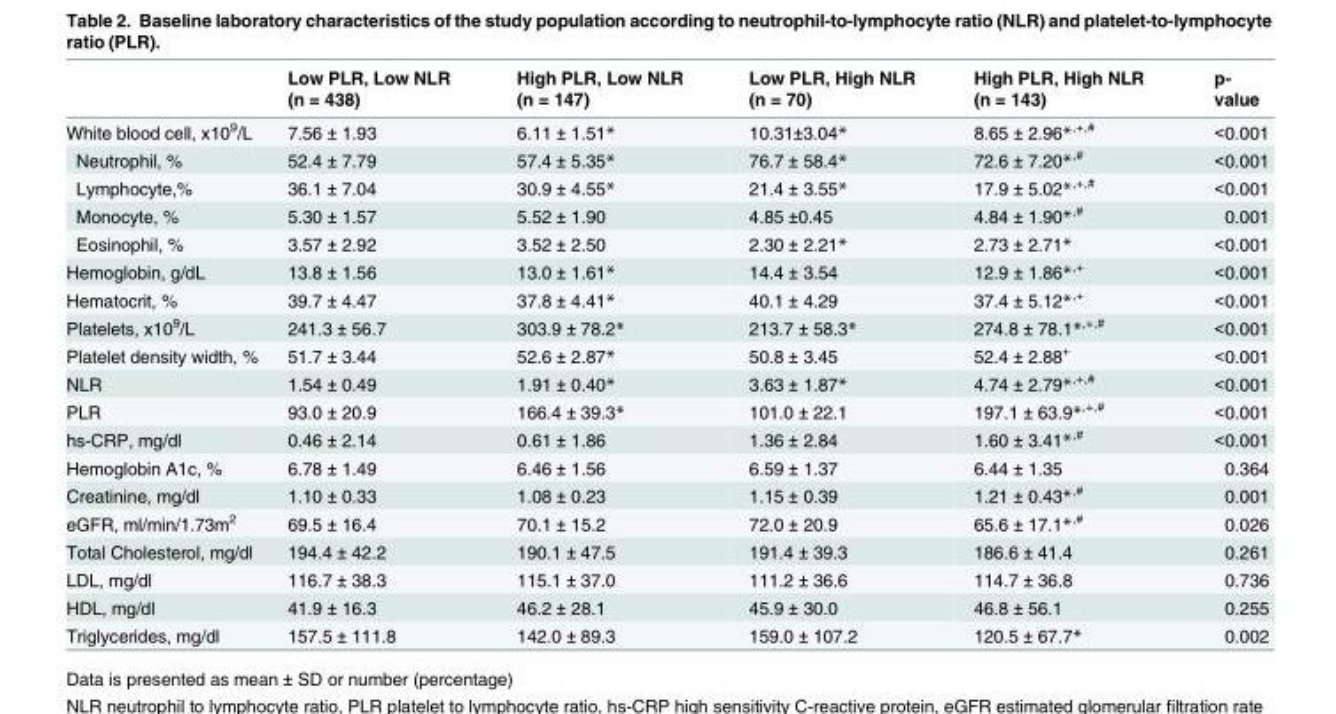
<table><thead><tr><td></td><td>Low PLR, Low NLR (n = 438)</td><td>High PLR, Low NLR (n = 147)</td><td>Low PLR, High NLR (n = 70)</td><td>High PLR, High NLR (n = 143)</td><td>p- value</td></tr></thead><tbody><tr><td>White blood cell, x10<sup>9</sup>/L</td><td>7.56 ± 1.93</td><td>6.11 ± 1.51*</td><td>10.31±3.04*</td><td>8.65 ± 2.96*<sup>,+,#</sup></td><td>&lt;0.001</td></tr><tr><td>Neutrophil, %</td><td>52.4 ± 7.79</td><td>57.4 ± 5.35*</td><td>76.7 ± 58.4*</td><td>72.6 ± 7.20*<sup>,#</sup></td><td>&lt;0.001</td></tr><tr><td>Lymphocyte,%</td><td>36.1 ± 7.04</td><td>30.9 ± 4.55*</td><td>21.4 ± 3.55*</td><td>17.9 ± 5.02*<sup>,+,#</sup></td><td>&lt;0.001</td></tr><tr><td>Monocyte, %</td><td>5.30 ± 1.57</td><td>5.52 ± 1.90</td><td>4.85 ±0.45</td><td>4.84 ± 1.90*<sup>,#</sup></td><td>0.001</td></tr><tr><td>Eosinophil, %</td><td>3.57 ± 2.92</td><td>3.52 ± 2.50</td><td>2.30 ± 2.21*</td><td>2.73 ± 2.71*</td><td>&lt;0.001</td></tr><tr><td>Hemoglobin, g/dL</td><td>13.8 ± 1.56</td><td>13.0 ± 1.61*</td><td>14.4 ± 3.54</td><td>12.9 ± 1.86*<sup>,+</sup></td><td>&lt;0.001</td></tr><tr><td>Hematocrit, %</td><td>39.7 ± 4.47</td><td>37.8 ± 4.41*</td><td>40.1 ± 4.29</td><td>37.4 ± 5.12*<sup>,+</sup></td><td>&lt;0.001</td></tr><tr><td>Platelets, x10<sup>9</sup>/L</td><td>241.3 ± 56.7</td><td>303.9 ± 78.2*</td><td>213.7 ± 58.3*</td><td>274.8 ± 78.1*<sup>,+,#</sup></td><td>&lt;0.001</td></tr><tr><td>Platelet density width, %</td><td>51.7 ± 3.44</td><td>52.6 ± 2.87*</td><td>50.8 ± 3.45</td><td>52.4 ± 2.88<sup>+</sup></td><td>&lt;0.001</td></tr><tr><td>NLR</td><td>1.54 ± 0.49</td><td>1.91 ± 0.40*</td><td>3.63 ± 1.87*</td><td>4.74 ± 2.79*<sup>,+,#</sup></td><td>&lt;0.001</td></tr><tr><td>PLR</td><td>93.0 ± 20.9</td><td>166.4 ± 39.3*</td><td>101.0 ± 22.1</td><td>197.1 ± 63.9*<sup>,+,#</sup></td><td>&lt;0.001</td></tr><tr><td>hs-CRP, mg/dl</td><td>0.46 ± 2.14</td><td>0.61 ± 1.86</td><td>1.36 ± 2.84</td><td>1.60 ± 3.41*<sup>,#</sup></td><td>&lt;0.001</td></tr><tr><td>Hemoglobin A1c, %</td><td>6.78 ± 1.49</td><td>6.46 ± 1.56</td><td>6.59 ± 1.37</td><td>6.44 ± 1.35</td><td>0.364</td></tr><tr><td>Creatinine, mg/dl</td><td>1.10 ± 0.33</td><td>1.08 ± 0.23</td><td>1.15 ± 0.39</td><td>1.21 ± 0.43*<sup>,#</sup></td><td>0.001</td></tr><tr><td>eGFR, ml/min/1.73m<sup>2</sup></td><td>69.5 ± 16.4</td><td>70.1 ± 15.2</td><td>72.0 ± 20.9</td><td>65.6 ± 17.1*<sup>,#</sup></td><td>0.026</td></tr><tr><td>Total Cholesterol, mg/dl</td><td>194.4 ± 42.2</td><td>190.1 ± 47.5</td><td>191.4 ± 39.3</td><td>186.6 ± 41.4</td><td>0.261</td></tr><tr><td>LDL, mg/dl</td><td>116.7 ± 38.3</td><td>115.1 ± 37.0</td><td>111.2 ± 36.6</td><td>114.7 ± 36.8</td><td>0.736</td></tr><tr><td>HDL, mg/dl</td><td>41.9 ± 16.3</td><td>46.2 ± 28.1</td><td>45.9 ± 30.0</td><td>46.8 ± 56.1</td><td>0.255</td></tr><tr><td>Triglycerides, mg/dl</td><td>157.5 ± 111.8</td><td>142.0 ± 89.3</td><td>159.0 ± 107.2</td><td>120.5 ± 67.7*</td><td>0.002</td></tr></tbody></table>